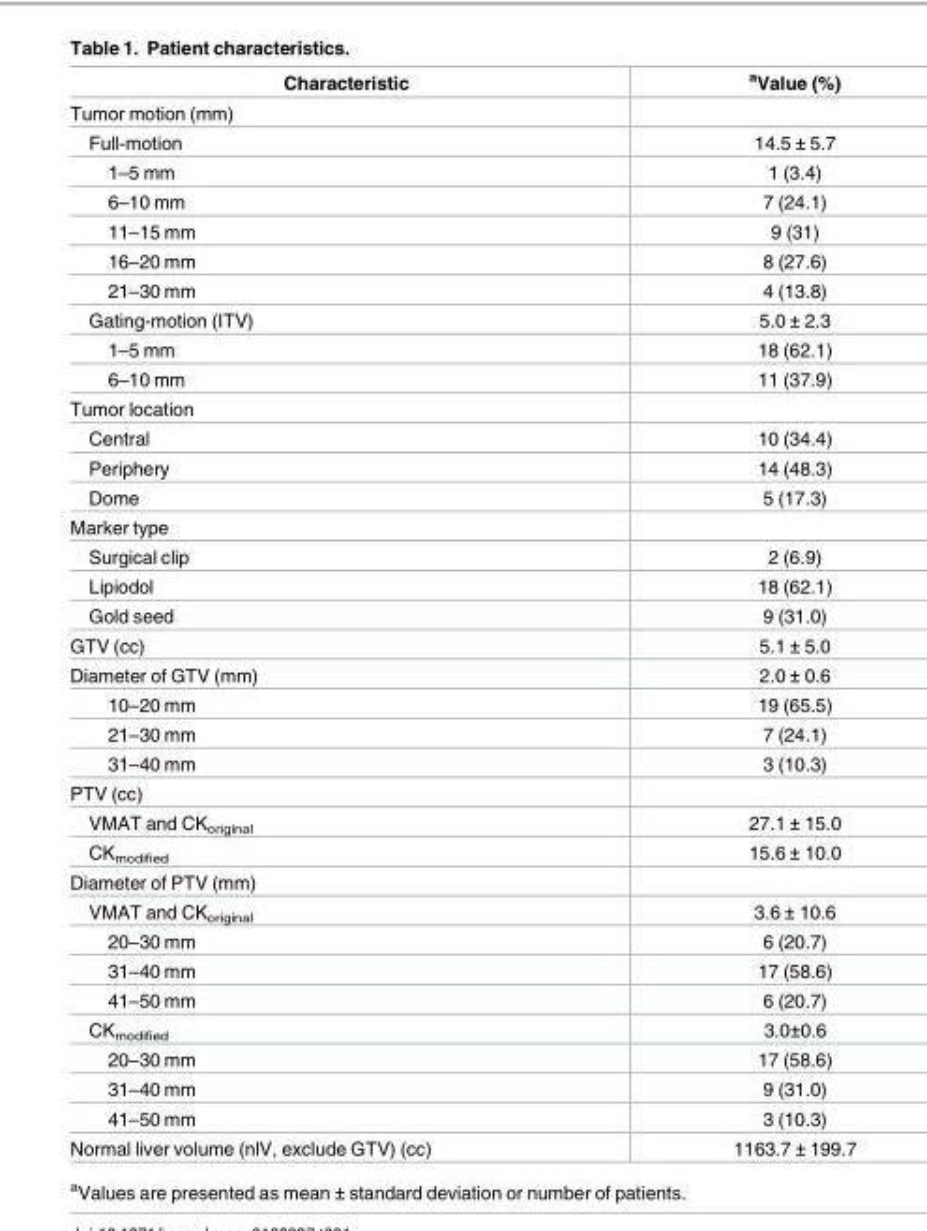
<table><thead><tr><td>Characteristic</td><td><sup>a</sup>Value (%)</td></tr></thead><tbody><tr><td colspan="2">Tumor motion (mm)</td></tr><tr><td>Full-motion</td><td>14.5 ± 5.7</td></tr><tr><td>1–5 mm</td><td>1 (3.4)</td></tr><tr><td>6–10 mm</td><td>7 (24.1)</td></tr><tr><td>11–15 mm</td><td>9 (31)</td></tr><tr><td>16–20 mm</td><td>8 (27.6)</td></tr><tr><td>21–30 mm</td><td>4 (13.8)</td></tr><tr><td>Gating-motion (ITV)</td><td>5.0 ± 2.3</td></tr><tr><td>1–5 mm</td><td>18 (62.1)</td></tr><tr><td>6–10 mm</td><td>11 (37.9)</td></tr><tr><td colspan="2">Tumor location</td></tr><tr><td>Central</td><td>10 (34.4)</td></tr><tr><td>Periphery</td><td>14 (48.3)</td></tr><tr><td>Dome</td><td>5 (17.3)</td></tr><tr><td colspan="2">Marker type</td></tr><tr><td>Surgical clip</td><td>2 (6.9)</td></tr><tr><td>Lipiodol</td><td>18 (62.1)</td></tr><tr><td>Gold seed</td><td>9 (31.0)</td></tr><tr><td>GTV (cc)</td><td>5.1 ± 5.0</td></tr><tr><td>Diameter of GTV (mm)</td><td>2.0 ± 0.6</td></tr><tr><td>10–20 mm</td><td>19 (65.5)</td></tr><tr><td>21–30 mm</td><td>7 (24.1)</td></tr><tr><td>31–40 mm</td><td>3 (10.3)</td></tr><tr><td colspan="2">PTV (cc)</td></tr><tr><td>VMAT and CK<sub>original</sub></td><td>27.1 ± 15.0</td></tr><tr><td>CK<sub>modified</sub></td><td>15.6 ± 10.0</td></tr><tr><td colspan="2">Diameter of PTV (mm)</td></tr><tr><td>VMAT and CK<sub>original</sub></td><td>3.6 ± 10.6</td></tr><tr><td>20–30 mm</td><td>6 (20.7)</td></tr><tr><td>31–40 mm</td><td>17 (58.6)</td></tr><tr><td>41–50 mm</td><td>6 (20.7)</td></tr><tr><td>CK<sub>modified</sub></td><td>3.0±0.6</td></tr><tr><td>20–30 mm</td><td>17 (58.6)</td></tr><tr><td>31–40 mm</td><td>9 (31.0)</td></tr><tr><td>41–50 mm</td><td>3 (10.3)</td></tr><tr><td>Normal liver volume (nlV, exclude GTV) (cc)</td><td>1163.7 ± 199.7</td></tr></tbody></table>